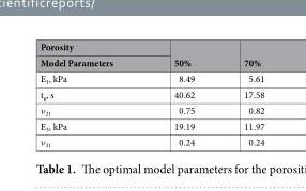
<table><thead><tr><td rowspan="2">Porosity Model Parameters</td><td rowspan="2">50%</td><td rowspan="2">70%</td></tr><tr></tr></thead><tbody><tr><td>E<sub>1</sub>, kPa</td><td>8.49</td><td>5.61</td></tr><tr><td>t<sub>g</sub>, s</td><td>40.62</td><td>17.58</td></tr><tr><td>ν<sub>21</sub></td><td>0.75</td><td>0.82</td></tr><tr><td>E<sub>3</sub>, kPa</td><td>19.19</td><td>11.97</td></tr><tr><td>ν<sub>31</sub></td><td>0.24</td><td>0.24</td></tr></tbody></table>